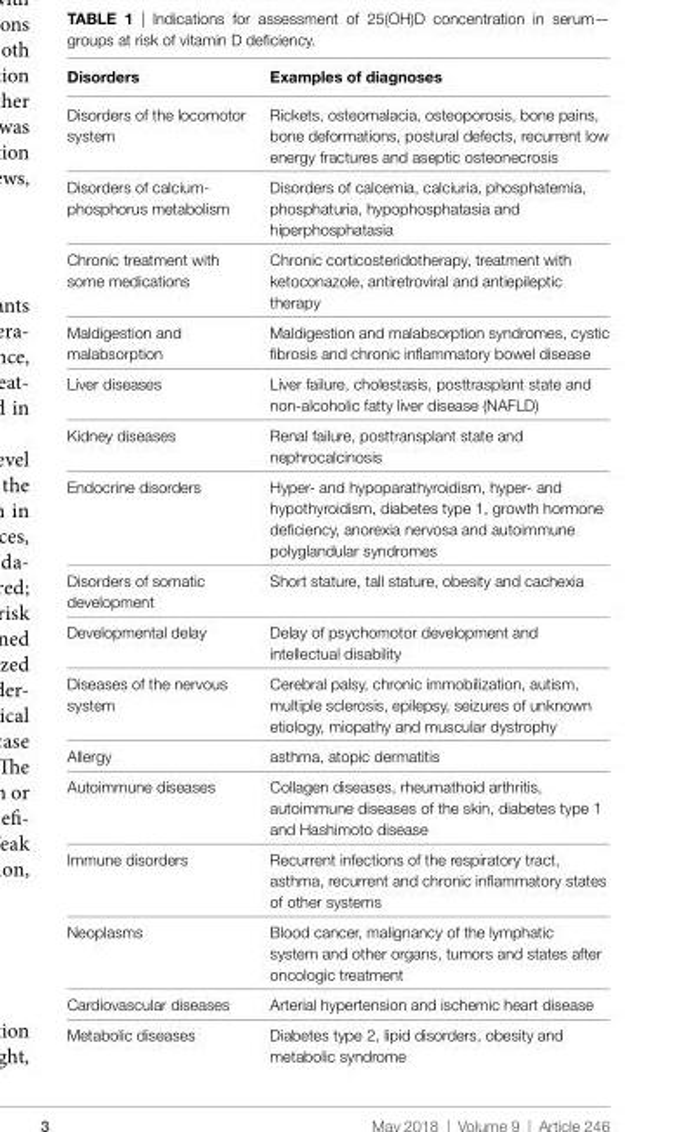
<table><thead><tr><td>Disorders</td><td>examples of diagnoses</td></tr></thead><tbody><tr><td>Disorders of the locomotor system</td><td>Rickets, osteomalacia, osteoporosis, bone pains, bone deformations, postural defects, recurrent low energy fractures and aseptic osteonecrosis</td></tr><tr><td>Disorders of calcium- phosphorus metabolism</td><td>Disorders of calcemia, calciuria, phosphatemia, phosphaturia, hypophosphatasia and hiperphosphatasia</td></tr><tr><td>Chronic treatment with some medications</td><td>Chronic corticosteridotherapy, treatment with ketoconazole, antiretroviral and antiepileptic therapy</td></tr><tr><td>Maldigestion and malabsorption</td><td>Maldigestion and malabsorption syndromes, cystic fibrosis and chronic inflammatory bowel disease</td></tr><tr><td>Liver diseases</td><td>Liver failure, cholestasis, posttrasplant state and non-alcoholic fatty liver disease (NAFLD)</td></tr><tr><td>Kidney diseases</td><td>Renal failure, posttransplant state and nephrocalcinosis</td></tr><tr><td>Endocrine disorders</td><td>Hyper- and hypoparathyroidism, hyper- and hypothyroidism, diabetes type 1, growth hormone deficiency, anorexia nervosa and autoimmune polyglandular syndromes</td></tr><tr><td>Disorders of somatic development</td><td>Short stature, tall stature, obesity and cachexia</td></tr><tr><td>Developmental delay</td><td>Delay of psychomotor development and intellectual disability</td></tr><tr><td>Diseases of the nervous system</td><td>Cerebral palsy, chronic immobilization, autism, multiple sclerosis, epilepsy, seizures of unknown etiology, miopathy and muscular dystrophy</td></tr><tr><td>Allergy</td><td>asthma, atopic dermatitis</td></tr><tr><td>Autoimmune diseases</td><td>Collagen diseases, rheumathoid arthritis, autoimmune diseases of the skin, diabetes type 1 and Hashimoto disease</td></tr><tr><td>Immune disorders</td><td>Recurrent infections of the respiratory tract, asthma, recurrent and chronic inflammatory states of other systems</td></tr><tr><td>Neoplasms</td><td>Blood cancer, malignancy of the lymphatic system and other organs, tumors and states after oncologic treatment</td></tr><tr><td>Cardiovascular diseases</td><td>Arterial hypertension and ischemic heart disease</td></tr><tr><td>Metabolic diseases</td><td>Diabetes type 2, lipid disorders, obesity and metabolic syndrome</td></tr></tbody></table>